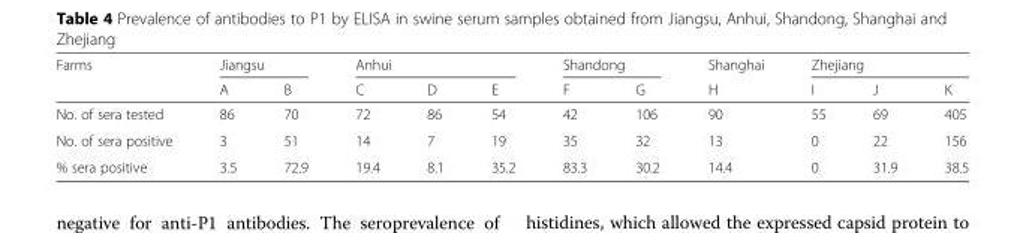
<table><thead><tr><td rowspan="2">Farms</td><td colspan="2">Jiangsu</td><td colspan="3">Anhui</td><td colspan="2">Shandong</td><td rowspan="2">Shanghai H</td><td colspan="3">Zhejiang</td></tr><tr><td>A</td><td>B</td><td>C</td><td>D</td><td>E</td><td>F</td><td>G</td><td>I</td><td>J</td><td>K</td></tr></thead><tbody><tr><td>No. of sera tested</td><td>86</td><td>70</td><td>72</td><td>86</td><td>54</td><td>42</td><td>106</td><td>90</td><td>55</td><td>69</td><td>405</td></tr><tr><td>No. of sera positive</td><td>3</td><td>51</td><td>14</td><td>7</td><td>19</td><td>35</td><td>32</td><td>13</td><td>0</td><td>22</td><td>156</td></tr><tr><td>% sera positive</td><td>3.5</td><td>72.9</td><td>19.4</td><td>8.1</td><td>35.2</td><td>83.3</td><td>30.2</td><td>14.4</td><td>0</td><td>31.9</td><td>38.5</td></tr></tbody></table>